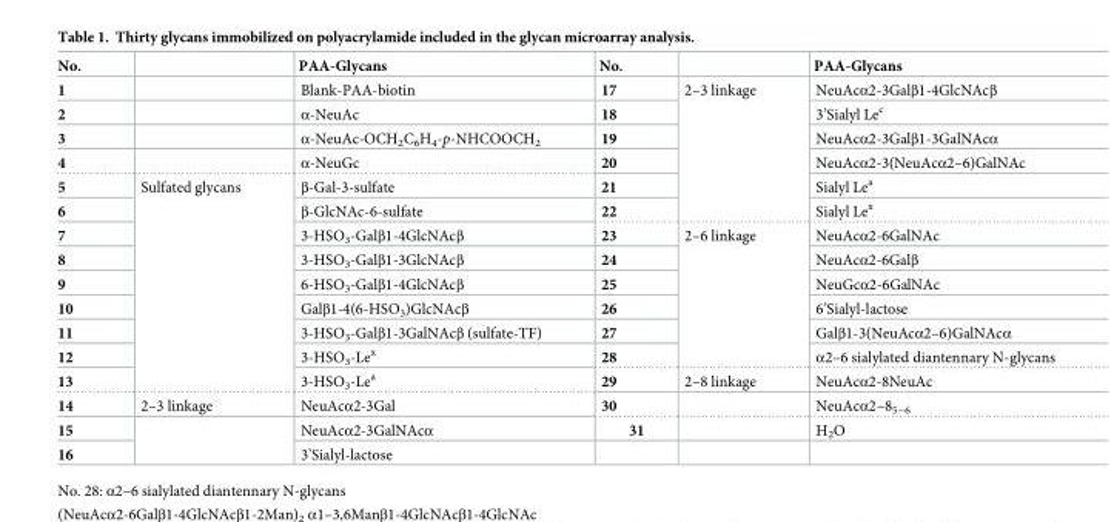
<table><thead><tr><td>No.</td><td></td><td>PAA-Glycans</td><td>No.</td><td></td><td>PAA-Glycans</td></tr></thead><tbody><tr><td>1</td><td></td><td>Blank-PAA-biotin</td><td>17</td><td rowspan="6">2–3 linkage</td><td>NeuAcα2-3Galβ1-4GlcNAcβ</td></tr><tr><td>2</td><td></td><td>α-NeuAc</td><td>18</td><td>3’Sialyl Le<sup>c</sup></td></tr><tr><td>3</td><td></td><td>α-NeuAc-OCH<sub>2</sub>C<sub>6</sub>H<sub>4</sub>-p-NHCOOCH<sub>2</sub></td><td>19</td><td>NeuAcα2-3Galβ1-3GalNAcα</td></tr><tr><td>4</td><td></td><td>α-NeuGc</td><td>20</td><td>NeuAcα2-3(NeuAcα2–6)GalNAc</td></tr><tr><td>5</td><td rowspan="9">Sulfated glycans</td><td>β-Gal-3-sulfate</td><td>21</td><td>Sialyl Le<sup>a</sup></td></tr><tr><td>6</td><td>β-GlcNAc-6-sulfate</td><td>22</td><td>Sialyl Le<sup>x</sup></td></tr><tr><td>7</td><td>3-HSO<sub>3</sub>-Galβ1-4GlcNAcβ</td><td>23</td><td rowspan="6">2–6 linkage</td><td>NeuAcα2-6GalNAc</td></tr><tr><td>8</td><td>3-HSO<sub>3</sub>-Galβ1-3GlcNAcβ</td><td>24</td><td>NeuAcα2-6Galβ</td></tr><tr><td>9</td><td>6-HSO<sub>3</sub>-Galβ1-4GlcNAcβ</td><td>25</td><td>NeuGcα2-6GalNAc</td></tr><tr><td>10</td><td>Galβ1-4(6-HSO<sub>3</sub>)GlcNAcβ</td><td>26</td><td>6’Sialyl-lactose</td></tr><tr><td>11</td><td>3-HSO<sub>3</sub>-Galβ1-3GalNAcβ (sulfate-TF)</td><td>27</td><td>Galβ1-3(NeuAcα2–6)GalNAcα</td></tr><tr><td>12</td><td>3-HSO<sub>3</sub>-Le<sup>x</sup></td><td>28</td><td>α2–6 sialylated diantennary N-glycans</td></tr><tr><td>13</td><td>3-HSO<sub>3</sub>-Le<sup>a</sup></td><td>29</td><td>2–8 linkage</td><td>NeuAcα2-8NeuAc</td></tr><tr><td>14</td><td>2–3 linkage</td><td>NeuAcα2-3Gal</td><td>30</td><td></td><td>NeuAcα2−8<sub>5−6</sub></td></tr><tr><td>15</td><td rowspan="2"></td><td>NeuAcα2-3GalNAcα</td><td>31</td><td></td><td>H<sub>2</sub>O</td></tr><tr><td>16</td><td>3’Sialyl-lactose</td><td></td><td></td><td></td></tr></tbody></table>